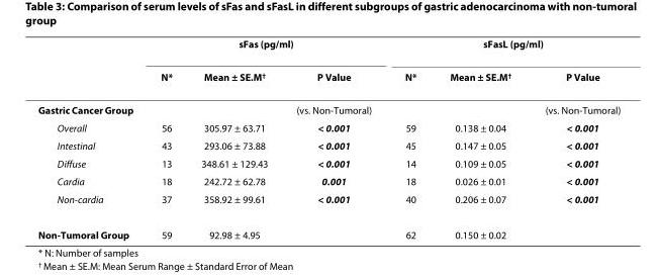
<table><thead><tr><td rowspan="2"></td><td colspan="3">sFas (pg/ml)</td><td colspan="3">sFasL (pg/ml)</td></tr><tr><td>N*</td><td>Mean ± SE.M<sup>†</sup></td><td>P Value</td><td>N*</td><td>Mean ± SE.M<sup>†</sup></td><td>P Value</td></tr></thead><tbody><tr><td>Gastric Cancer Group</td><td></td><td></td><td>(vs. Non-Tumoral)</td><td></td><td></td><td>(vs. Non-Tumoral)</td></tr><tr><td>Overall</td><td>56</td><td>305.97 ± 63.71</td><td>&lt; 0.001</td><td>59</td><td>0.138 ± 0.04</td><td>&lt; 0.001</td></tr><tr><td>Intestinal</td><td>43</td><td>293.06 ± 73.88</td><td>&lt; 0.001</td><td>45</td><td>0.147 ± 0.05</td><td>&lt; 0.001</td></tr><tr><td>Diffuse</td><td>13</td><td>348.61 ± 129.43</td><td>&lt; 0.001</td><td>14</td><td>0.109 ± 0.05</td><td>&lt; 0.001</td></tr><tr><td>Cardia</td><td>18</td><td>242.72 ± 62.78</td><td>0.001</td><td>18</td><td>0.026 ± 0.01</td><td>&lt; 0.001</td></tr><tr><td>Non-cardia</td><td>37</td><td>358.92 ± 99.61</td><td>&lt; 0.001</td><td>40</td><td>0.206 ± 0.07</td><td>&lt; 0.001</td></tr><tr><td>Non-Tumoral Group</td><td>59</td><td>92.98 ± 4.95</td><td></td><td>62</td><td>0.150 ± 0.02</td><td></td></tr></tbody></table>